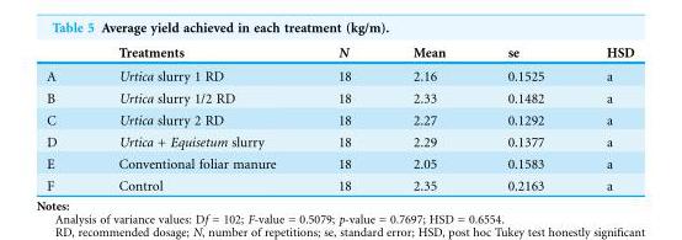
<table><thead><tr><td></td><td>Treatments</td><td>N</td><td>Mean</td><td>se</td><td>HSD</td></tr></thead><tbody><tr><td>A</td><td>Urtica slurry 1 RD</td><td>18</td><td>2.16</td><td>0.1525</td><td>a</td></tr><tr><td>B</td><td>Urtica slurry 1/2 RD</td><td>18</td><td>2.33</td><td>0.1482</td><td>a</td></tr><tr><td>C</td><td>Urtica slurry 2 RD</td><td>18</td><td>2.27</td><td>0.1292</td><td>a</td></tr><tr><td>D</td><td>Urtica + Equisetum slurry</td><td>18</td><td>2.29</td><td>0.1377</td><td>a</td></tr><tr><td>E</td><td>Conventional foliar manure</td><td>18</td><td>2.05</td><td>0.1583</td><td>a</td></tr><tr><td>F</td><td>Control</td><td>18</td><td>2.35</td><td>0.2163</td><td>a</td></tr></tbody></table>